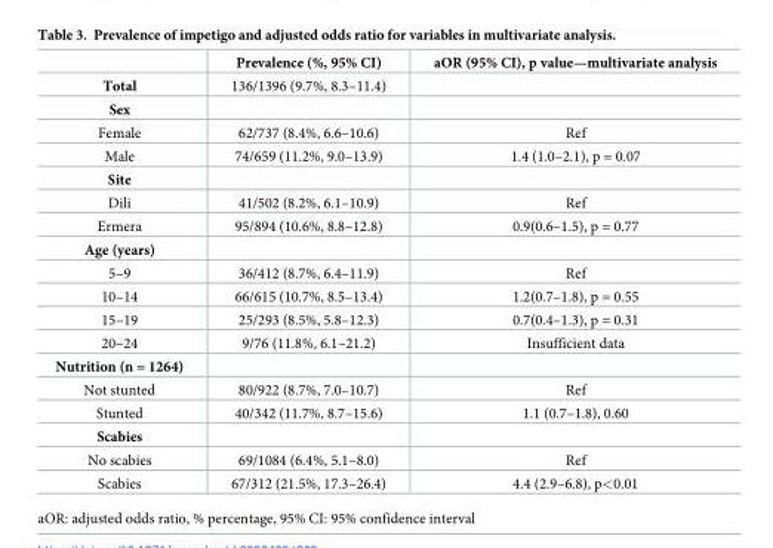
<table><thead><tr><td></td><td>Prevalence (%, 95% CI)</td><td>aOR (95% CI), p value—multivariate analysis</td></tr></thead><tbody><tr><td>Total</td><td>136/1396 (9.7%, 8.3–11.4)</td><td></td></tr><tr><td colspan="3">Sex</td></tr><tr><td>Female</td><td>62/737 (8.4%, 6.6–10.6)</td><td>Ref</td></tr><tr><td>Male</td><td>74/659 (11.2%, 9.0–13.9)</td><td>1.4 (1.0–2.1), p = 0.07</td></tr><tr><td colspan="3">Site</td></tr><tr><td>Dili</td><td>41/502 (8.2%, 6.1–10.9)</td><td>Ref</td></tr><tr><td>Ermera</td><td>95/894 (10.6%, 8.8–12.8)</td><td>0.9(0.6–1.5), p = 0.77</td></tr><tr><td colspan="3">Age (years)</td></tr><tr><td>5–9</td><td>36/412 (8.7%, 6.4–11.9)</td><td>Ref</td></tr><tr><td>10–14</td><td>66/615 (10.7%, 8.5–13.4)</td><td>1.2(0.7–1.8), p = 0.55</td></tr><tr><td>15–19</td><td>25/293 (8.5%, 5.8–12.3)</td><td>0.7(0.4–1.3), p = 0.31</td></tr><tr><td>20–24</td><td>9/76 (11.8%, 6.1–21.2)</td><td>Insufficient data</td></tr><tr><td colspan="3">Nutrition (n = 1264)</td></tr><tr><td>Not stunted</td><td>80/922 (8.7%, 7.0–10.7)</td><td>Ref</td></tr><tr><td>Stunted</td><td>40/342 (11.7%, 8.7–15.6)</td><td>1.1 (0.7–1.8), 0.60</td></tr><tr><td colspan="3">Scabies</td></tr><tr><td>No scabies</td><td>69/1084 (6.4%, 5.1–8.0)</td><td>Ref</td></tr><tr><td>Scabies</td><td>67/312 (21.5%, 17.3–26.4)</td><td>4.4 (2.9–6.8), p&lt;0.01</td></tr></tbody></table>